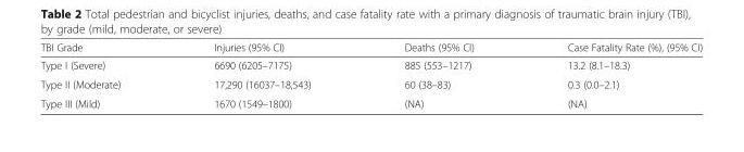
<table><thead><tr><td>TBI Grade</td><td>Injuries (95% CI)</td><td>Deaths (95% CI)</td><td>Case Fatality Rate (%), (95% CI)</td></tr></thead><tbody><tr><td>Type I (Severe)</td><td>6690 (6205–7175)</td><td>885 (553–1217)</td><td>13.2 (8.1–18.3)</td></tr><tr><td>Type II (Moderate)</td><td>17,290 (16037–18,543)</td><td>60 (38–83)</td><td>0.3 (0.0–2.1)</td></tr><tr><td>Type III (Mild)</td><td>1670 (1549–1800)</td><td>(NA)</td><td>(NA)</td></tr></tbody></table>